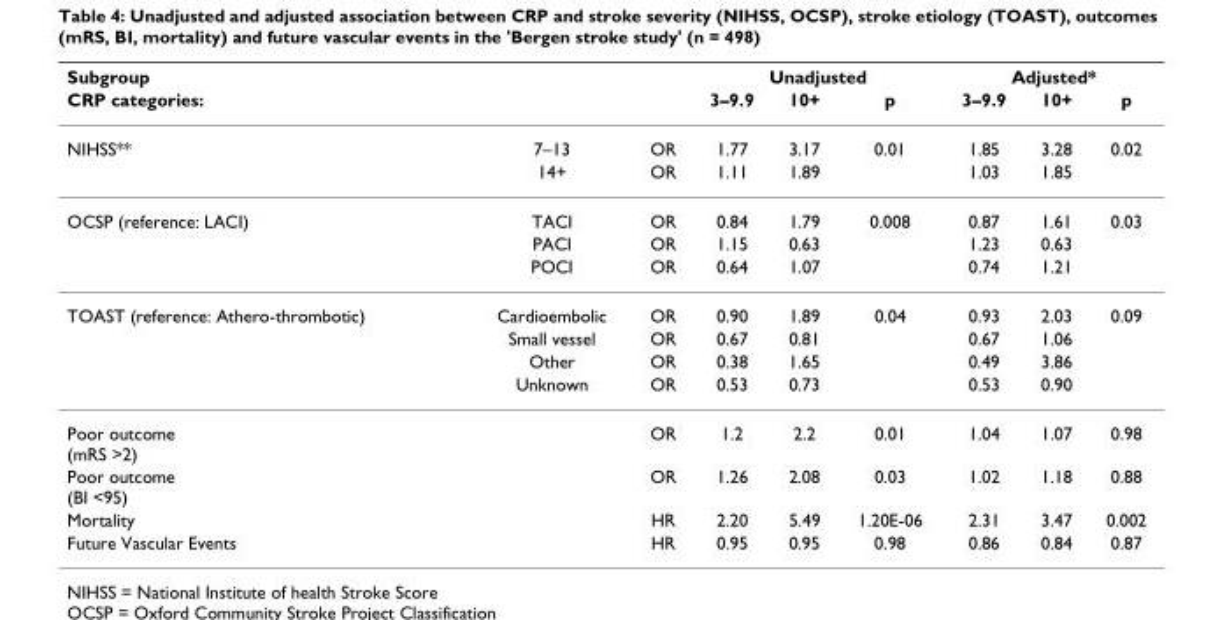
<table><thead><tr><td rowspan="2">Subgroup CRP categories:</td><td rowspan="2"></td><td rowspan="2"></td><td colspan="3">Unadjusted</td><td colspan="3">Adjusted*</td></tr><tr><td>3–9.9</td><td>10+</td><td>p</td><td>3–9.9</td><td>10+</td><td>p</td></tr></thead><tbody><tr><td rowspan="2">NIHSS**</td><td>7–13</td><td>OR</td><td>1.77</td><td>3.17</td><td>0.01</td><td>1.85</td><td>3.28</td><td>0.02</td></tr><tr><td>14+</td><td>OR</td><td>1.11</td><td>1.89</td><td></td><td>1.03</td><td>1.85</td><td></td></tr><tr><td rowspan="3">OCSP (reference: LACI)</td><td>TACI</td><td>OR</td><td>0.84</td><td>1.79</td><td>0.008</td><td>0.87</td><td>1.61</td><td>0.03</td></tr><tr><td>PACI</td><td>OR</td><td>1.15</td><td>0.63</td><td></td><td>1.23</td><td>0.63</td><td></td></tr><tr><td>POCI</td><td>OR</td><td>0.64</td><td>1.07</td><td></td><td>0.74</td><td>1.21</td><td></td></tr><tr><td rowspan="4">TOAST (reference: Athero-thrombotic)</td><td>Cardioembolic</td><td>OR</td><td>0.90</td><td>1.89</td><td>0.04</td><td>0.93</td><td>2.03</td><td>0.09</td></tr><tr><td>Small vessel</td><td>OR</td><td>0.67</td><td>0.81</td><td></td><td>0.67</td><td>1.06</td><td></td></tr><tr><td>Other</td><td>OR</td><td>0.38</td><td>1.65</td><td></td><td>0.49</td><td>3.86</td><td></td></tr><tr><td>Unknown</td><td>OR</td><td>0.53</td><td>0.73</td><td></td><td>0.53</td><td>0.90</td><td></td></tr><tr><td>Poor outcome (mRS &gt;2)</td><td></td><td>OR</td><td>1.2</td><td>2.2</td><td>0.01</td><td>1.04</td><td>1.07</td><td>0.98</td></tr><tr><td>Poor outcome (BI &lt;95)</td><td></td><td>OR</td><td>1.26</td><td>2.08</td><td>0.03</td><td>1.02</td><td>1.18</td><td>0.88</td></tr><tr><td>Mortality</td><td></td><td>HR</td><td>2.20</td><td>5.49</td><td>1.20E-06</td><td>2.31</td><td>3.47</td><td>0.002</td></tr><tr><td>Future Vascular Events</td><td></td><td>HR</td><td>0.95</td><td>0.95</td><td>0.98</td><td>0.86</td><td>0.84</td><td>0.87</td></tr></tbody></table>